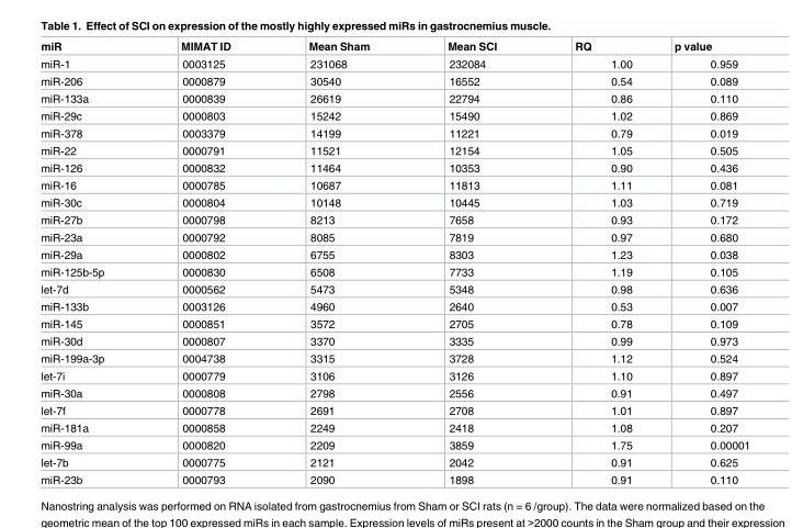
<table><thead><tr><td>miR</td><td>MIMAT ID</td><td>Mean Sham</td><td>Mean SCI</td><td>RQ</td><td>p value</td></tr></thead><tbody><tr><td>miR-1</td><td>0003125</td><td>231068</td><td>232084</td><td>1.00</td><td>0.959</td></tr><tr><td>miR-206</td><td>0000879</td><td>30540</td><td>16552</td><td>0.54</td><td>0.089</td></tr><tr><td>miR-133a</td><td>0000839</td><td>26619</td><td>22794</td><td>0.86</td><td>0.110</td></tr><tr><td>miR-29c</td><td>0000803</td><td>15242</td><td>15490</td><td>1.02</td><td>0.869</td></tr><tr><td>miR-378</td><td>0003379</td><td>14199</td><td>11221</td><td>0.79</td><td>0.019</td></tr><tr><td>miR-22</td><td>0000791</td><td>11521</td><td>12154</td><td>1.05</td><td>0.505</td></tr><tr><td>miR-126</td><td>0000832</td><td>11464</td><td>10353</td><td>0.90</td><td>0.436</td></tr><tr><td>miR-16</td><td>0000785</td><td>10687</td><td>11813</td><td>1.11</td><td>0.081</td></tr><tr><td>miR-30c</td><td>0000804</td><td>10148</td><td>10445</td><td>1.03</td><td>0.719</td></tr><tr><td>miR-27b</td><td>0000798</td><td>8213</td><td>7658</td><td>0.93</td><td>0.172</td></tr><tr><td>miR-23a</td><td>0000792</td><td>8085</td><td>7819</td><td>0.97</td><td>0.680</td></tr><tr><td>miR-29a</td><td>0000802</td><td>6755</td><td>8303</td><td>1.23</td><td>0.038</td></tr><tr><td>miR-125b-5p</td><td>0000830</td><td>6508</td><td>7733</td><td>1.19</td><td>0.105</td></tr><tr><td>let-7d</td><td>0000562</td><td>5473</td><td>5348</td><td>0.98</td><td>0.636</td></tr><tr><td>miR-133b</td><td>0003126</td><td>4960</td><td>2640</td><td>0.53</td><td>0.007</td></tr><tr><td>miR-145</td><td>0000851</td><td>3572</td><td>2705</td><td>0.78</td><td>0.109</td></tr><tr><td>miR-30d</td><td>0000807</td><td>3370</td><td>3335</td><td>0.99</td><td>0.973</td></tr><tr><td>miR-199a-3p</td><td>0004738</td><td>3315</td><td>3728</td><td>1.12</td><td>0.524</td></tr><tr><td>let-7i</td><td>0000779</td><td>3106</td><td>3126</td><td>1.10</td><td>0.897</td></tr><tr><td>miR-30a</td><td>0000808</td><td>2798</td><td>2556</td><td>0.91</td><td>0.497</td></tr><tr><td>let-7f</td><td>0000778</td><td>2691</td><td>2708</td><td>1.01</td><td>0.897</td></tr><tr><td>miR-181a</td><td>0000858</td><td>2249</td><td>2418</td><td>1.08</td><td>0.207</td></tr><tr><td>miR-99a</td><td>0000820</td><td>2209</td><td>3859</td><td>1.75</td><td>0.00001</td></tr><tr><td>let-7b</td><td>0000775</td><td>2121</td><td>2042</td><td>0.91</td><td>0.625</td></tr><tr><td>miR-23b</td><td>0000793</td><td>2090</td><td>1898</td><td>0.91</td><td>0.110</td></tr></tbody></table>